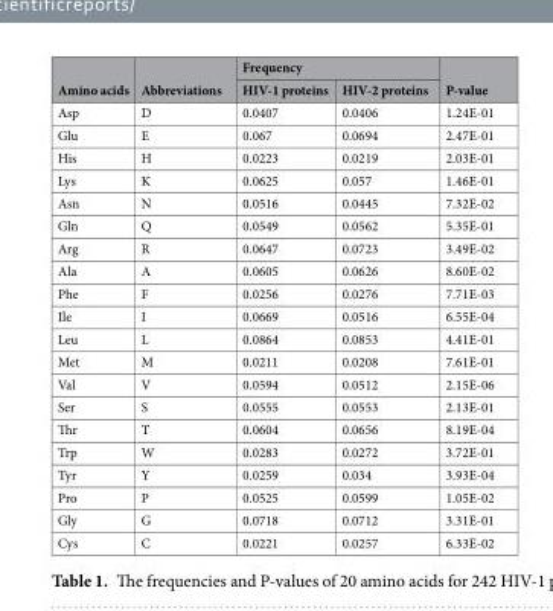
<table><thead><tr><td rowspan="2">Amino acids</td><td rowspan="2">Abbreviations</td><td colspan="2">Frequency</td><td rowspan="2">P-value</td></tr><tr><td>HIV-1 proteins</td><td>HIV-2 proteins</td></tr></thead><tbody><tr><td>Asp</td><td>D</td><td>0.0407</td><td>0.0406</td><td>1.24E-01</td></tr><tr><td>Glu</td><td>E</td><td>0.067</td><td>0.0694</td><td>2.47E-01</td></tr><tr><td>His</td><td>H</td><td>0.0223</td><td>0.0219</td><td>2.03E-01</td></tr><tr><td>Lys</td><td>K</td><td>0.0625</td><td>0.057</td><td>1.46E-01</td></tr><tr><td>Asn</td><td>N</td><td>0.0516</td><td>0.0445</td><td>7.32E-02</td></tr><tr><td>Gln</td><td>Q</td><td>0.0549</td><td>0.0562</td><td>5.35E-01</td></tr><tr><td>Arg</td><td>R</td><td>0.0647</td><td>0.0723</td><td>3.49E-02</td></tr><tr><td>Ala</td><td>A</td><td>0.0605</td><td>0.0626</td><td>8.60E-02</td></tr><tr><td>Phe</td><td>F</td><td>0.0256</td><td>0.0276</td><td>7.71E-03</td></tr><tr><td>Ile</td><td>I</td><td>0.0669</td><td>0.0516</td><td>6.55E-04</td></tr><tr><td>Leu</td><td>L</td><td>0.0864</td><td>0.0853</td><td>4.41E-01</td></tr><tr><td>Met</td><td>M</td><td>0.0211</td><td>0.0208</td><td>7.61E-01</td></tr><tr><td>Val</td><td>V</td><td>0.0594</td><td>0.0512</td><td>2.15E-06</td></tr><tr><td>Ser</td><td>S</td><td>0.0555</td><td>0.0553</td><td>2.13E-01</td></tr><tr><td>Thr</td><td>T</td><td>0.0604</td><td>0.0656</td><td>8.19E-04</td></tr><tr><td>Trp</td><td>W</td><td>0.0283</td><td>0.0272</td><td>3.72E-01</td></tr><tr><td>Tyr</td><td>Y</td><td>0.0259</td><td>0.034</td><td>3.93E-04</td></tr><tr><td>Pro</td><td>P</td><td>0.0525</td><td>0.0599</td><td>1.05E-02</td></tr><tr><td>Gly</td><td>G</td><td>0.0718</td><td>0.0712</td><td>3.31E-01</td></tr><tr><td>Cys</td><td>C</td><td>0.0221</td><td>0.0257</td><td>6.33E-02</td></tr></tbody></table>